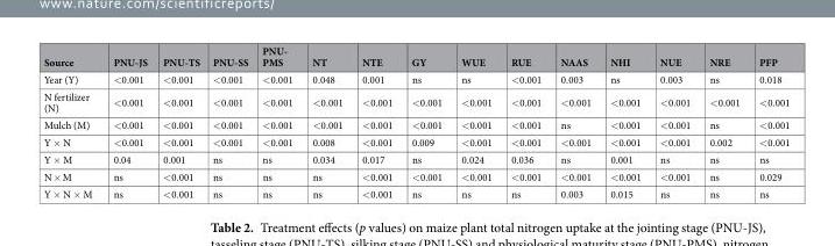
<table><thead><tr><td>Source</td><td>PNU-JS</td><td>PNU-TS</td><td>PNU-SS</td><td>PNU- PMS</td><td>NT</td><td>NTE</td><td>GY</td><td>WUE</td><td>RUE</td><td>NAAS</td><td>NHI</td><td>NUE</td><td>NRE</td><td>PFP</td></tr></thead><tbody><tr><td>Year (Y)</td><td>&lt;0.001</td><td>&lt;0.001</td><td>&lt;0.001</td><td>&lt;0.001</td><td>0.048</td><td>0.001</td><td>ns</td><td>ns</td><td>&lt;0.001</td><td>0.003</td><td>ns</td><td>0.003</td><td>ns</td><td>0.018</td></tr><tr><td>N fertilizer (N)</td><td>&lt;0.001</td><td>&lt;0.001</td><td>&lt;0.001</td><td>&lt;0.001</td><td>&lt;0.001</td><td>&lt;0.001</td><td>&lt;0.001</td><td>&lt;0.001</td><td>&lt;0.001</td><td>&lt;0.001</td><td>&lt;0.001</td><td>&lt;0.001</td><td>&lt;0.001</td><td>&lt;0.001</td></tr><tr><td>Mulch (M)</td><td>&lt;0.001</td><td>&lt;0.001</td><td>&lt;0.001</td><td>&lt;0.001</td><td>&lt;0.001</td><td>&lt;0.001</td><td>&lt;0.001</td><td>&lt;0.001</td><td>&lt;0.001</td><td>ns</td><td>&lt;0.001</td><td>&lt;0.001</td><td>ns</td><td>&lt;0.001</td></tr><tr><td>Y × N</td><td>&lt;0.001</td><td>&lt;0.001</td><td>&lt;0.001</td><td>&lt;0.001</td><td>0.008</td><td>&lt;0.001</td><td>0.009</td><td>&lt;0.001</td><td>&lt;0.001</td><td>&lt;0.001</td><td>&lt;0.001</td><td>&lt;0.001</td><td>0.002</td><td>&lt;0.001</td></tr><tr><td>Y × M</td><td>0.04</td><td>0.001</td><td>ns</td><td>ns</td><td>0.034</td><td>0.017</td><td>ns</td><td>0.024</td><td>0.036</td><td>ns</td><td>0.001</td><td>ns</td><td>ns</td><td>ns</td></tr><tr><td>N × M</td><td>ns</td><td>&lt;0.001</td><td>ns</td><td>ns</td><td>ns</td><td>&lt;0.001</td><td>&lt;0.001</td><td>&lt;0.001</td><td>&lt;0.001</td><td>&lt;0.001</td><td>&lt;0.001</td><td>&lt;0.001</td><td>ns</td><td>0.029</td></tr><tr><td>Y × N × M</td><td>ns</td><td>&lt;0.001</td><td>ns</td><td>ns</td><td>ns</td><td>&lt;0.001</td><td>ns</td><td>ns</td><td>ns</td><td>0.003</td><td>0.015</td><td>ns</td><td>ns</td><td>ns</td></tr></tbody></table>